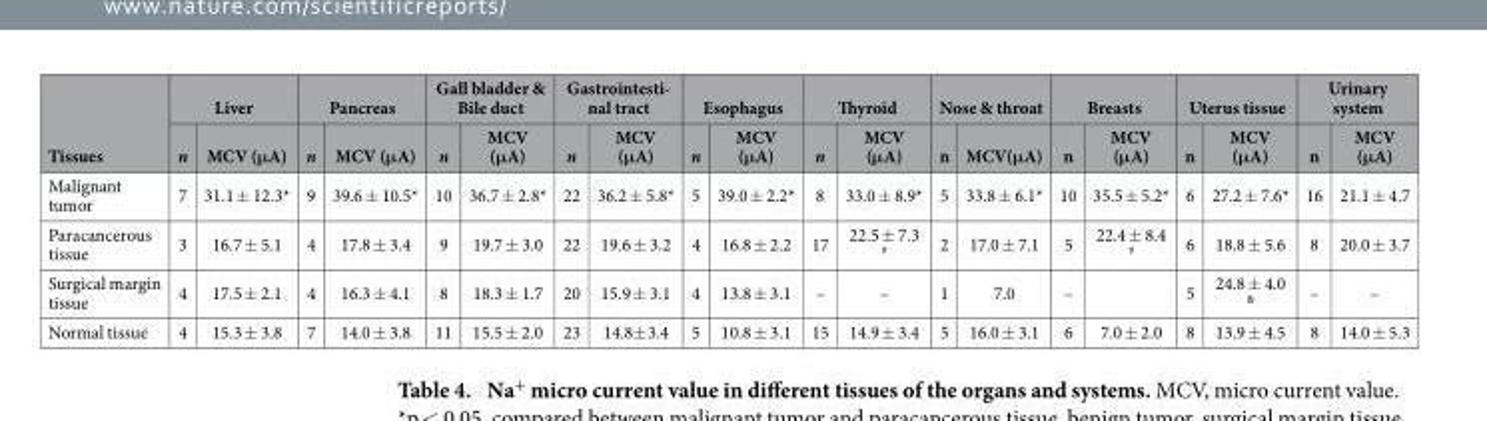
<table><thead><tr><td rowspan="2">Tissues</td><td colspan="2">Liver</td><td colspan="2">Pancreas</td><td colspan="2">Gall bladder &amp; Bile duct</td><td colspan="2">Gastrointesti- nal tract</td><td colspan="2">Esophagus</td><td colspan="2">Thyroid</td><td colspan="2">Nose &amp; throat</td><td colspan="2">Breasts</td><td colspan="2">Uterus tissue</td><td colspan="2">Urinary system</td></tr><tr><td>n</td><td>MCV (μA)</td><td>n</td><td>MCV (μA)</td><td>n</td><td>MCV (μA)</td><td>n</td><td>MCV (μA)</td><td>n</td><td>MCV (μA)</td><td>n</td><td>MCV (μA)</td><td>n</td><td>MCV(μA)</td><td>n</td><td>MCV (μA)</td><td>n</td><td>MCV (μA)</td><td>n</td><td>MCV (μA)</td></tr></thead><tbody><tr><td>Malignant tumor</td><td>7</td><td>31.1 ± 12.3*</td><td>9</td><td>39.6 ± 10.5*</td><td>10</td><td>36.7 ± 2.8*</td><td>22</td><td>36.2 ± 5.8*</td><td>5</td><td>39.0 ± 2.2*</td><td>8</td><td>33.0 ± 8.9*</td><td>5</td><td>33.8 ± 6.1*</td><td>10</td><td>35.5 ± 5.2*</td><td>6</td><td>27.2 ± 7.6*</td><td>16</td><td>21.1 ± 4.7</td></tr><tr><td>Paracancerous tissue</td><td>3</td><td>16.7 ± 5.1</td><td>4</td><td>17.8 ± 3.4</td><td>9</td><td>19.7 ± 3.0</td><td>22</td><td>19.6 ± 3.2</td><td>4</td><td>16.8 ± 2.2</td><td>17</td><td>22.5 ± 7.3 #</td><td>2</td><td>17.0 ± 7.1</td><td>5</td><td>22.4 ± 8.4 #</td><td>6</td><td>18.8 ± 5.6</td><td>8</td><td>20.0 ± 3.7</td></tr><tr><td>Surgical margin tissue</td><td>4</td><td>17.5 ± 2.1</td><td>4</td><td>16.3 ± 4.1</td><td>8</td><td>18.3 ± 1.7</td><td>20</td><td>15.9 ± 3.1</td><td>4</td><td>13.8 ± 3.1</td><td>–</td><td>–</td><td>1</td><td>7.0</td><td>–</td><td></td><td>5</td><td>24.8 ± 4.0 &amp;</td><td>–</td><td>–</td></tr><tr><td>Normal tissue</td><td>4</td><td>15.3 ± 3.8</td><td>7</td><td>14.0 ± 3.8</td><td>11</td><td>15.5 ± 2.0</td><td>23</td><td>14.8± 3.4</td><td>5</td><td>10.8 ± 3.1</td><td>15</td><td>14.9 ± 3.4</td><td>5</td><td>16.0 ± 3.1</td><td>6</td><td>7.0 ± 2.0</td><td>8</td><td>13.9 ± 4.5</td><td>8</td><td>14.0 ± 5.3</td></tr></tbody></table>